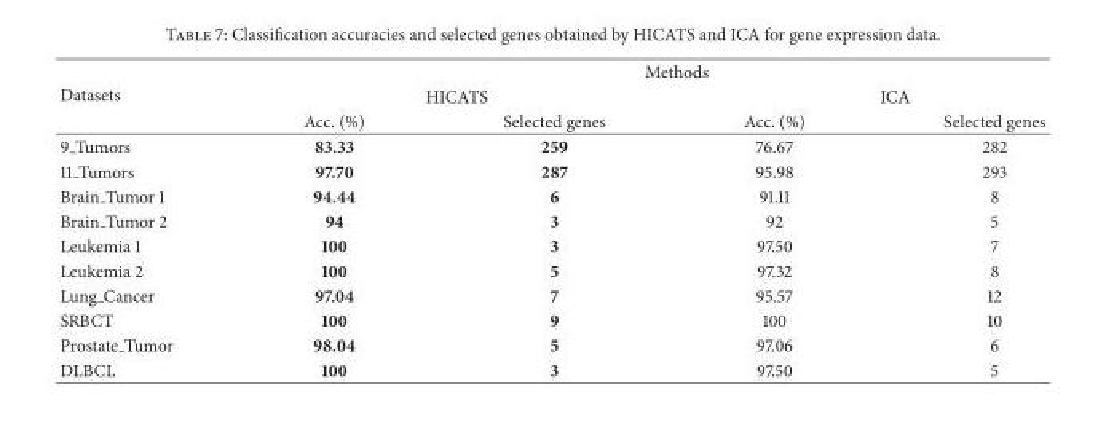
<table><thead><tr><td rowspan="3">Datasets</td><td colspan="4">Methods</td></tr><tr><td colspan="2">HICATS</td><td colspan="2">ICA</td></tr><tr><td>Acc. (%)</td><td>Selected genes</td><td>Acc. (%)</td><td>Selected genes</td></tr></thead><tbody><tr><td>9 Tumors</td><td>83.33</td><td>259</td><td>76.67</td><td>282</td></tr><tr><td>11 Tumors</td><td>97.70</td><td>287</td><td>95.98</td><td>293</td></tr><tr><td>Brain Tumor 1</td><td>94.44</td><td>6</td><td>91.11</td><td>8</td></tr><tr><td>Brain Tumor 2</td><td>94</td><td>3</td><td>92</td><td>5</td></tr><tr><td>Leukemia 1</td><td>100</td><td>3</td><td>97.50</td><td>7</td></tr><tr><td>Leukemia 2</td><td>100</td><td>5</td><td>97.32</td><td>8</td></tr><tr><td>Lung Cancer</td><td>97.04</td><td>7</td><td>95.57</td><td>12</td></tr><tr><td>SRBCT</td><td>100</td><td>9</td><td>100</td><td>10</td></tr><tr><td>Prostate Tumor</td><td>98.04</td><td>5</td><td>97.06</td><td>6</td></tr><tr><td>DLBCL</td><td>100</td><td>3</td><td>97.50</td><td>5</td></tr></tbody></table>